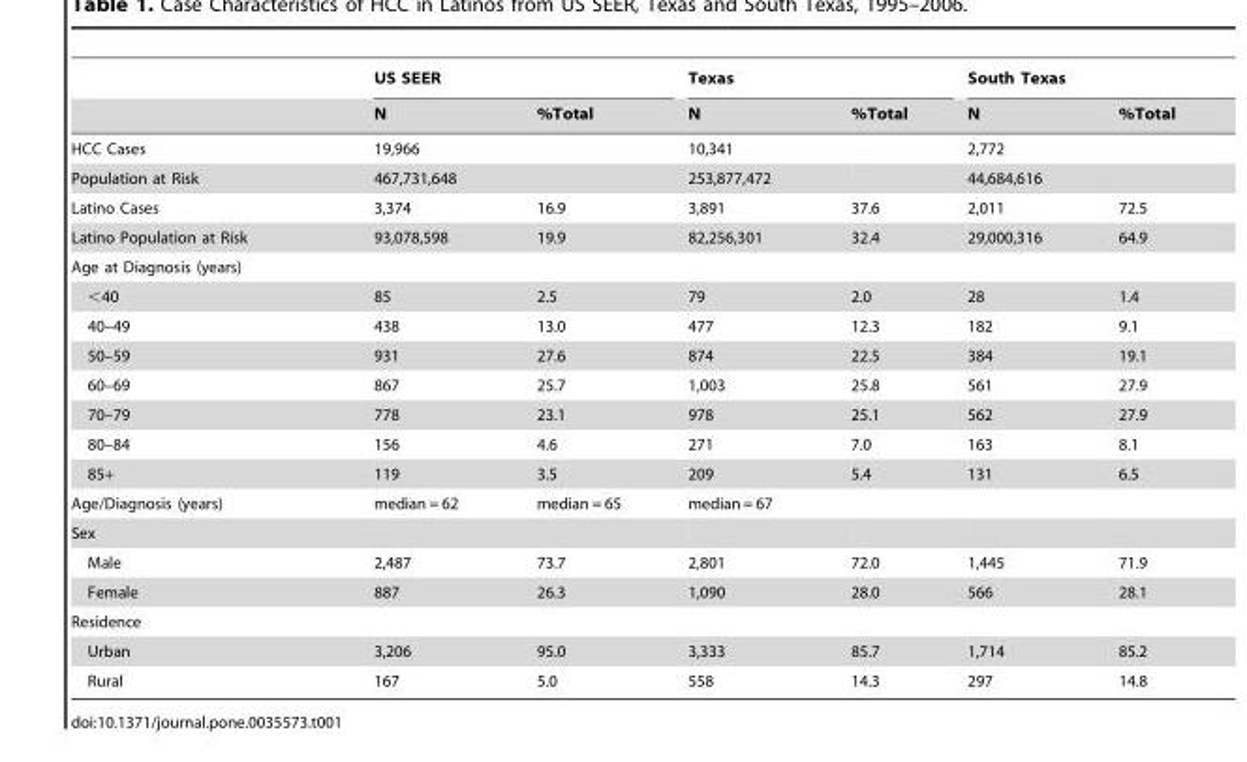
<table><thead><tr><td rowspan="2"></td><td colspan="2">US SEER</td><td colspan="2">Texas</td><td colspan="2">South Texas</td></tr><tr><td>N</td><td>%Total</td><td>N</td><td>%Total</td><td>N</td><td>%Total</td></tr></thead><tbody><tr><td>HCC Cases</td><td>19,966</td><td></td><td>10,341</td><td></td><td>2,772</td><td></td></tr><tr><td>Population at Risk</td><td>467,731,648</td><td></td><td>253,877,472</td><td></td><td>44,684,616</td><td></td></tr><tr><td>Latino Cases</td><td>3,374</td><td>16.9</td><td>3,891</td><td>37.6</td><td>2,011</td><td>72.5</td></tr><tr><td>Latino Population at Risk</td><td>93,078,598</td><td>19.9</td><td>82,256,301</td><td>32.4</td><td>29,000,316</td><td>64.9</td></tr><tr><td colspan="7">Age at Diagnosis (years)</td></tr><tr><td>&lt;40</td><td>85</td><td>2.5</td><td>79</td><td>2.0</td><td>28</td><td>1.4</td></tr><tr><td>40–49</td><td>438</td><td>13.0</td><td>477</td><td>12.3</td><td>182</td><td>9.1</td></tr><tr><td>50–59</td><td>931</td><td>27.6</td><td>874</td><td>22.5</td><td>384</td><td>19.1</td></tr><tr><td>60–69</td><td>867</td><td>25.7</td><td>1,003</td><td>25.8</td><td>561</td><td>27.9</td></tr><tr><td>70–79</td><td>778</td><td>23.1</td><td>978</td><td>25.1</td><td>562</td><td>27.9</td></tr><tr><td>80–84</td><td>156</td><td>4.6</td><td>271</td><td>7.0</td><td>163</td><td>8.1</td></tr><tr><td>85+</td><td>119</td><td>3.5</td><td>209</td><td>5.4</td><td>131</td><td>6.5</td></tr><tr><td>Age/Diagnosis (years)</td><td>median = 62</td><td>median = 65</td><td>median = 67</td><td></td><td></td><td></td></tr><tr><td colspan="7">Sex</td></tr><tr><td>Male</td><td>2,487</td><td>73.7</td><td>2,801</td><td>72.0</td><td>1,445</td><td>71.9</td></tr><tr><td>Female</td><td>887</td><td>26.3</td><td>1,090</td><td>28.0</td><td>566</td><td>28.1</td></tr><tr><td colspan="7">Residence</td></tr><tr><td>Urban</td><td>3,206</td><td>95.0</td><td>3,333</td><td>85.7</td><td>1,714</td><td>85.2</td></tr><tr><td>Rural</td><td>167</td><td>5.0</td><td>558</td><td>14.3</td><td>297</td><td>14.8</td></tr></tbody></table>